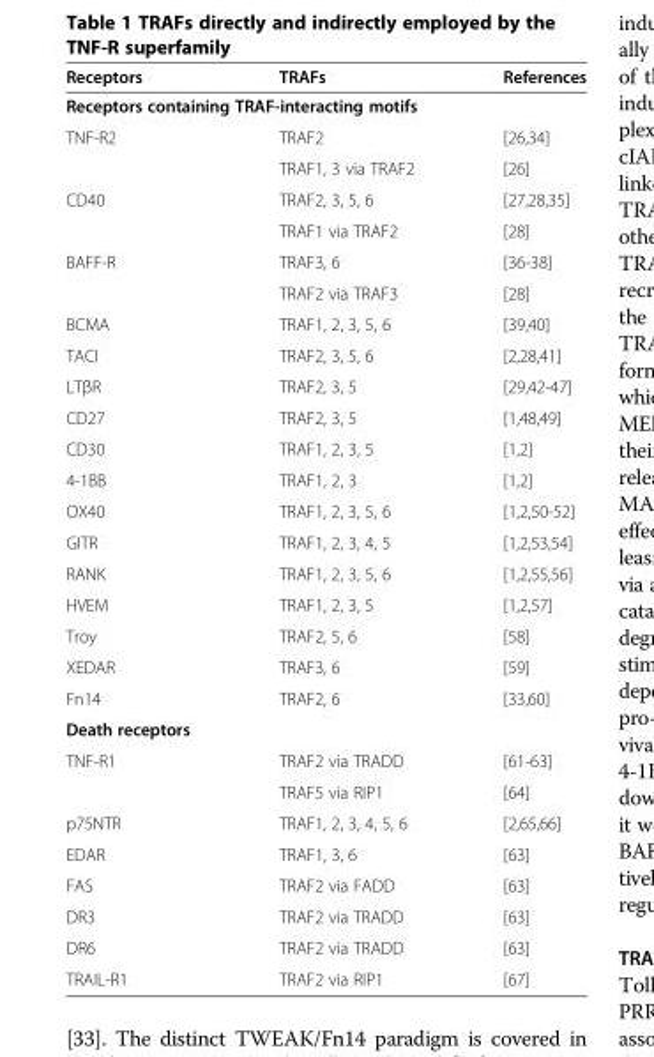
<table><thead><tr><td>Receptors</td><td>TRAFs</td><td>References</td></tr></thead><tbody><tr><td colspan="3">Receptors containing TRAF-interacting motifs</td></tr><tr><td rowspan="2">TNF-R2</td><td>TRAF2</td><td>[26,34]</td></tr><tr><td>TRAF1, 3 via TRAF2</td><td>[26]</td></tr><tr><td rowspan="2">CD40</td><td>TRAF2, 3, 5, 6</td><td>[27,28,35]</td></tr><tr><td>TRAF1 via TRAF2</td><td>[28]</td></tr><tr><td rowspan="2">BAFF-R</td><td>TRAF3, 6</td><td>[36-38]</td></tr><tr><td>TRAF2 via TRAF3</td><td>[28]</td></tr><tr><td>BCMA</td><td>TRAF1, 2, 3, 5, 6</td><td>[39,40]</td></tr><tr><td>TACI</td><td>TRAF2, 3, 5, 6</td><td>[2,28,41]</td></tr><tr><td>LTβR</td><td>TRAF2, 3, 5</td><td>[29,42-47]</td></tr><tr><td>CD27</td><td>TRAF2, 3, 5</td><td>[1,48,49]</td></tr><tr><td>CD30</td><td>TRAF1, 2, 3, 5</td><td>[1,2]</td></tr><tr><td>4-1BB</td><td>TRAF1, 2, 3</td><td>[1,2]</td></tr><tr><td>OX40</td><td>TRAF1, 2, 3, 5, 6</td><td>[1,2,50-52]</td></tr><tr><td>GITR</td><td>TRAF1, 2, 3, 4, 5</td><td>[1,2,53,54]</td></tr><tr><td>RANK</td><td>TRAF1, 2, 3, 5, 6</td><td>[1,2,55,56]</td></tr><tr><td>HVEM</td><td>TRAF1, 2, 3, 5</td><td>[1,2,57]</td></tr><tr><td>Troy</td><td>TRAF2, 5, 6</td><td>[58]</td></tr><tr><td>XEDAR</td><td>TRAF3, 6</td><td>[59]</td></tr><tr><td>Fn14</td><td>TRAF2, 6</td><td>[33,60]</td></tr><tr><td colspan="3">Death receptors</td></tr><tr><td rowspan="2">TNF-R1</td><td>TRAF2 via TRADD</td><td>[61-63]</td></tr><tr><td>TRAF5 via RIP1</td><td>[64]</td></tr><tr><td>p75NTR</td><td>TRAF1, 2, 3, 4, 5, 6</td><td>[2,65,66]</td></tr><tr><td>EDAR</td><td>TRAF1, 3, 6</td><td>[63]</td></tr><tr><td>FAS</td><td>TRAF2 via FADD</td><td>[63]</td></tr><tr><td>DR3</td><td>TRAF2 via TRADD</td><td>[63]</td></tr><tr><td>DR6</td><td>TRAF2 via TRADD</td><td>[63]</td></tr><tr><td>TRAIL-R1</td><td>TRAF2 via RIP1</td><td>[67]</td></tr></tbody></table>